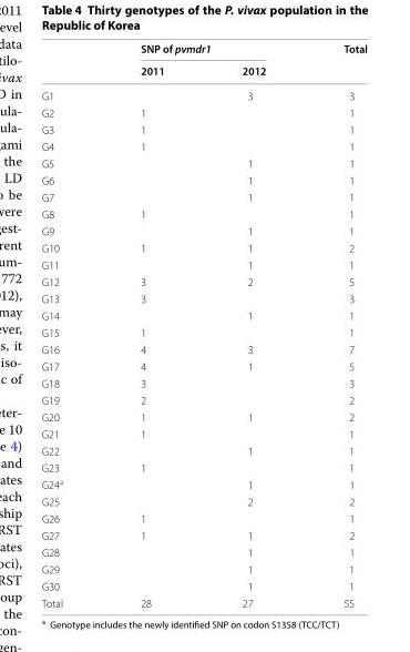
<table><thead><tr><td rowspan="2"></td><td colspan="2">SNP of pvmdr1</td><td rowspan="2">Total</td></tr><tr><td>2011</td><td>2012</td></tr></thead><tbody><tr><td>G1</td><td></td><td>3</td><td>3</td></tr><tr><td>G2</td><td>1</td><td></td><td>1</td></tr><tr><td>G3</td><td>1</td><td></td><td>1</td></tr><tr><td>G4</td><td>1</td><td></td><td>1</td></tr><tr><td>G5</td><td></td><td>1</td><td>1</td></tr><tr><td>G6</td><td></td><td>1</td><td>1</td></tr><tr><td>G7</td><td></td><td>1</td><td>1</td></tr><tr><td>G8</td><td>1</td><td></td><td>1</td></tr><tr><td>G9</td><td></td><td>1</td><td>1</td></tr><tr><td>G10</td><td>1</td><td>1</td><td>2</td></tr><tr><td>G11</td><td></td><td>1</td><td>1</td></tr><tr><td>G12</td><td>3</td><td>2</td><td>5</td></tr><tr><td>G13</td><td>3</td><td></td><td>3</td></tr><tr><td>G14</td><td></td><td>1</td><td>1</td></tr><tr><td>G15</td><td>1</td><td></td><td>1</td></tr><tr><td>G16</td><td>4</td><td>3</td><td>7</td></tr><tr><td>G17</td><td>4</td><td>1</td><td>5</td></tr><tr><td>G18</td><td>3</td><td></td><td>3</td></tr><tr><td>G19</td><td>2</td><td></td><td>2</td></tr><tr><td>G20</td><td>1</td><td>1</td><td>2</td></tr><tr><td>G21</td><td>1</td><td></td><td>1</td></tr><tr><td>G22</td><td></td><td>1</td><td>1</td></tr><tr><td>G23</td><td>1</td><td></td><td>1</td></tr><tr><td>G24<sup>a</sup></td><td></td><td>1</td><td>1</td></tr><tr><td>G25</td><td></td><td>2</td><td>2</td></tr><tr><td>G26</td><td>1</td><td></td><td>1</td></tr><tr><td>G27</td><td>1</td><td>1</td><td>2</td></tr><tr><td>G28</td><td></td><td>1</td><td>1</td></tr><tr><td>G29</td><td></td><td>1</td><td>1</td></tr><tr><td>G30</td><td></td><td>1</td><td>1</td></tr><tr><td>Total</td><td>28</td><td>27</td><td>55</td></tr></tbody></table>